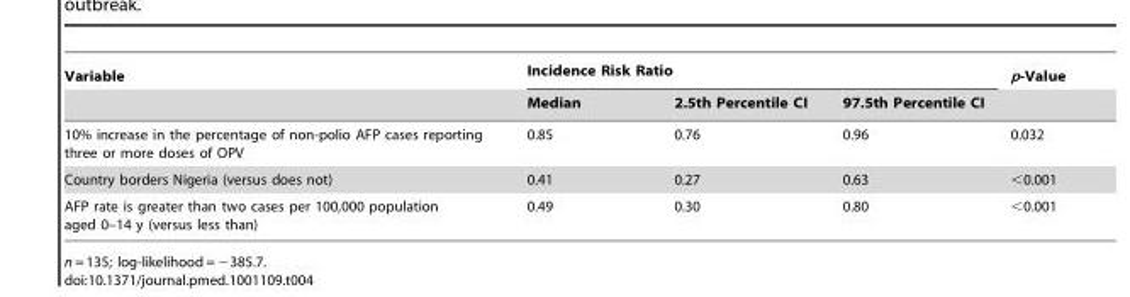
<table><thead><tr><td rowspan="2">Variable</td><td colspan="3">Incidence Risk Ratio</td><td rowspan="2">p-Value</td></tr><tr><td>Median</td><td>2.5th Percentile CI</td><td>97.5th Percentile CI</td></tr></thead><tbody><tr><td>10% increase in the percentage of non-polio AFP cases reporting three or more doses of OPV</td><td>0.85</td><td>0.76</td><td>0.96</td><td>0.032</td></tr><tr><td>Country borders Nigeria (versus does not)</td><td>0.41</td><td>0.27</td><td>0.63</td><td>&lt;0.001</td></tr><tr><td>AFP rate is greater than two cases per 100,000 population aged 0–14 y (versus less than)</td><td>0.49</td><td>0.30</td><td>0.80</td><td>&lt;0.001</td></tr></tbody></table>